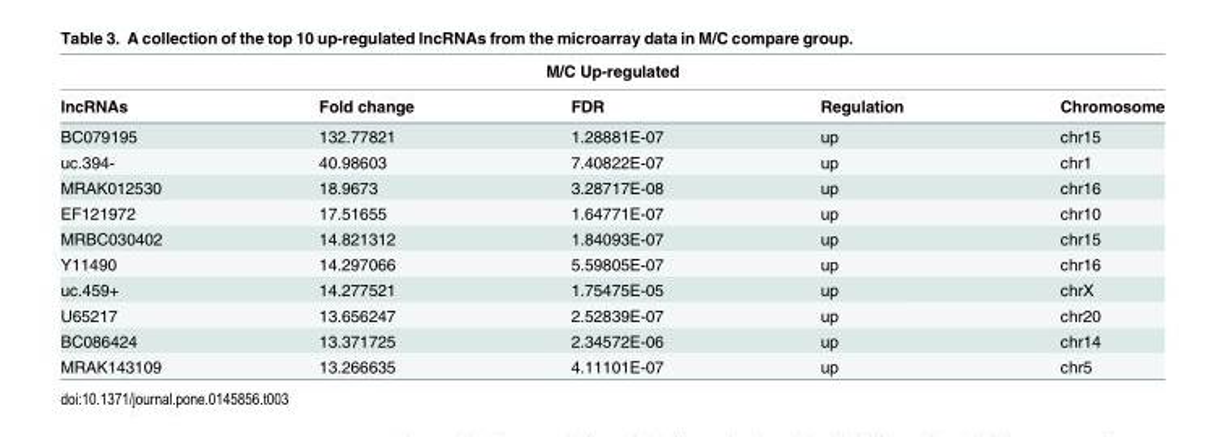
<table><thead><tr><td colspan="5">M/C Up-regulated</td></tr><tr><td>lncRNAs</td><td>Fold change</td><td>FDR</td><td>Regulation</td><td>Chromosome</td></tr></thead><tbody><tr><td>BC079195</td><td>132.77821</td><td>1.28881E-07</td><td>up</td><td>chr15</td></tr><tr><td>uc.394-</td><td>40.98603</td><td>7.40822E-07</td><td>up</td><td>chr1</td></tr><tr><td>MRAK012530</td><td>18.9673</td><td>3.28717E-08</td><td>up</td><td>chr16</td></tr><tr><td>EF121972</td><td>17.51655</td><td>1.64771E-07</td><td>up</td><td>chr10</td></tr><tr><td>MRBC030402</td><td>14.821312</td><td>1.84093E-07</td><td>up</td><td>chr15</td></tr><tr><td>Y11490</td><td>14.297066</td><td>5.59805E-07</td><td>up</td><td>chr16</td></tr><tr><td>uc.459+</td><td>14.277521</td><td>1.75475E-05</td><td>up</td><td>chrX</td></tr><tr><td>U65217</td><td>13.656247</td><td>2.52839E-07</td><td>up</td><td>chr20</td></tr><tr><td>BC086424</td><td>13.371725</td><td>2.34572E-06</td><td>up</td><td>chr14</td></tr><tr><td>MRAK143109</td><td>13.266635</td><td>4.11101E-07</td><td>up</td><td>chr5</td></tr></tbody></table>